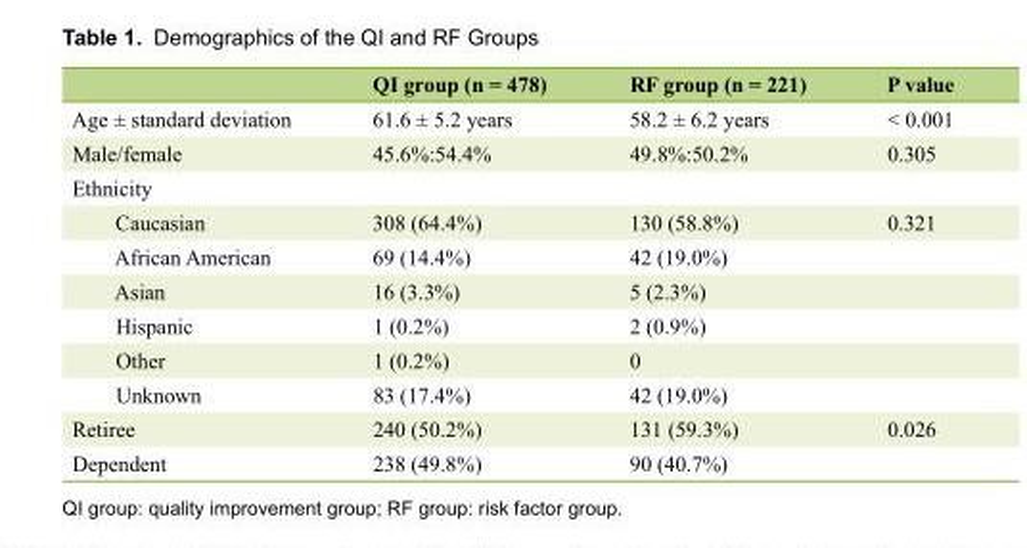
<table><thead><tr><td></td><td>QI group (n = 478)</td><td>RF group (n = 221)</td><td>P value</td></tr></thead><tbody><tr><td>Age ± standard deviation</td><td>61.6 ± 5.2 years</td><td>58.2 ± 6.2 years</td><td>&lt; 0.001</td></tr><tr><td>Male/female</td><td>45.6%:54.4%</td><td>49.8%:50.2%</td><td>0.305</td></tr><tr><td colspan="4">Ethnicity</td></tr><tr><td>Caucasian</td><td>308 (64.4%)</td><td>130 (58.8%)</td><td>0.321</td></tr><tr><td>African American</td><td>69 (14.4%)</td><td>42 (19.0%)</td><td></td></tr><tr><td>Asian</td><td>16 (3.3%)</td><td>5 (2.3%)</td><td></td></tr><tr><td>Hispanic</td><td>1 (0.2%)</td><td>2 (0.9%)</td><td></td></tr><tr><td>Other</td><td>1 (0.2%)</td><td>0</td><td></td></tr><tr><td>Unknown</td><td>83 (17.4%)</td><td>42 (19.0%)</td><td></td></tr><tr><td>Retiree</td><td>240 (50.2%)</td><td>131 (59.3%)</td><td>0.026</td></tr><tr><td>Dependent</td><td>238 (49.8%)</td><td>90 (40.7%)</td><td></td></tr></tbody></table>